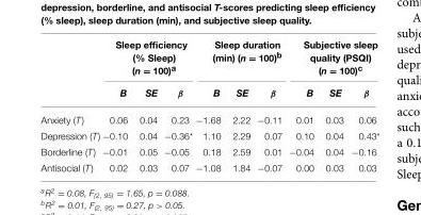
<table><thead><tr><td rowspan="2"></td><td colspan="3">Sleep efficiency (% Sleep) (n = 100)<sup>a</sup></td><td colspan="3">Sleep duration (min) (n = 100)<sup>b</sup></td><td colspan="3">Subjective sleep quality (PSQI) (n = 100)<sup>c</sup></td></tr><tr><td>B</td><td>SE</td><td>β</td><td>B</td><td>SE</td><td>β</td><td>B</td><td>SE</td><td>β</td></tr></thead><tbody><tr><td>Anxiety (T)</td><td>0.06</td><td>0.04</td><td>0.23</td><td>−1.68</td><td>2.22</td><td>−0.11</td><td>0.01</td><td>0.03</td><td>0.06</td></tr><tr><td>Depression (T)</td><td>−0.10</td><td>0.04</td><td>−0.36*</td><td>1.10</td><td>2.29</td><td>0.07</td><td>0.10</td><td>0.04</td><td>0.43*</td></tr><tr><td>Borderline (T)</td><td>−0.01</td><td>0.05</td><td>−0.05</td><td>0.18</td><td>2.59</td><td>0.01</td><td>−0.04</td><td>0.04</td><td>−0.16</td></tr><tr><td>Antisocial (T)</td><td>0.02</td><td>0.03</td><td>0.07</td><td>−1.08</td><td>1.84</td><td>−0.07</td><td>0.00</td><td>0.03</td><td>0.03</td></tr></tbody></table>